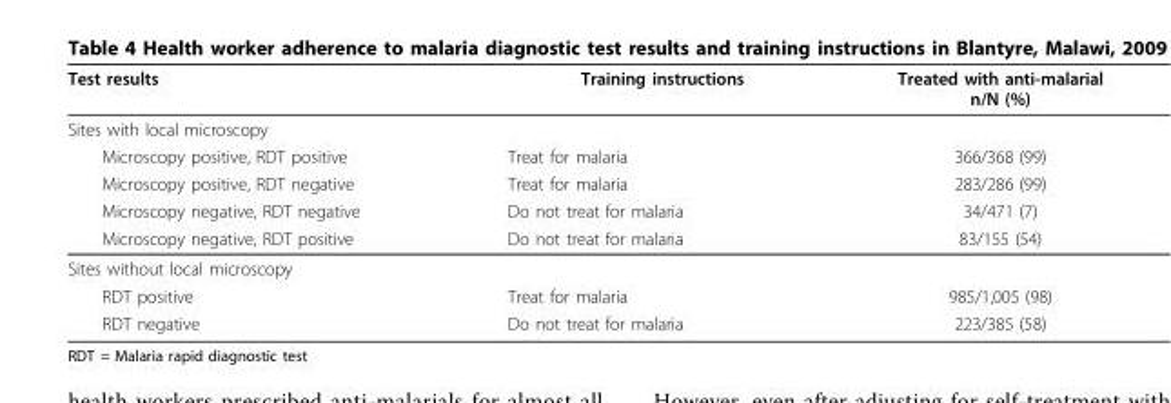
<table><thead><tr><td>Test results</td><td>Training instructions</td><td>Treated with anti-malarial n/N (%)</td></tr></thead><tbody><tr><td colspan="3">Sites with local microscopy</td></tr><tr><td>Microscopy positive, RDT positive</td><td>Treat for malaria</td><td>366/368 (99)</td></tr><tr><td>Microscopy positive, RDT negative</td><td>Treat for malaria</td><td>283/286 (99)</td></tr><tr><td>Microscopy negative, RDT negative</td><td>Do not treat for malaria</td><td>34/471 (7)</td></tr><tr><td>Microscopy negative, RDT positive</td><td>Do not treat for malaria</td><td>83/155 (54)</td></tr><tr><td colspan="3">Sites without local microscopy</td></tr><tr><td>RDT positive</td><td>Treat for malaria</td><td>985/1,005 (98)</td></tr><tr><td>RDT negative</td><td>Do not treat for malaria</td><td>223/385 (58)</td></tr></tbody></table>